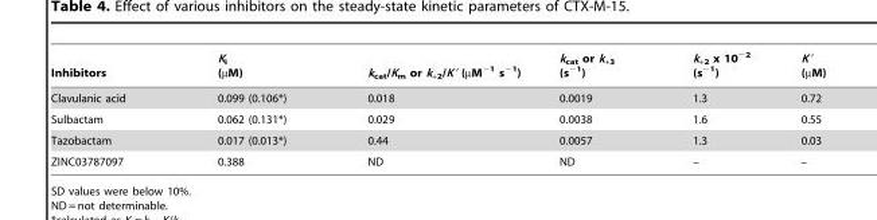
<table><thead><tr><td>Inhibitors</td><td>K<sub>i</sub> (µM)</td><td>k<sub>cat</sub>/K<sub>m</sub> or k<sub>+2</sub>/K′ (µM<sup>−1</sup> s<sup>−1</sup>)</td><td>k<sub>cat</sub> or k<sub>+3</sub> (s<sup>−1</sup>)</td><td>k<sub>+2</sub> x 10<sup>−2</sup> (s<sup>−1</sup>)</td><td>K′ (µM)</td></tr></thead><tbody><tr><td>Clavulanic acid</td><td>0.099 (0.106*)</td><td>0.018</td><td>0.0019</td><td>1.3</td><td>0.72</td></tr><tr><td>Sulbactam</td><td>0.062 (0.131*)</td><td>0.029</td><td>0.0038</td><td>1.6</td><td>0.55</td></tr><tr><td>Tazobactam</td><td>0.017 (0.013*)</td><td>0.44</td><td>0.0057</td><td>1.3</td><td>0.03</td></tr><tr><td>ZINC03787097</td><td>0.388</td><td>ND</td><td>ND</td><td>–</td><td>–</td></tr></tbody></table>